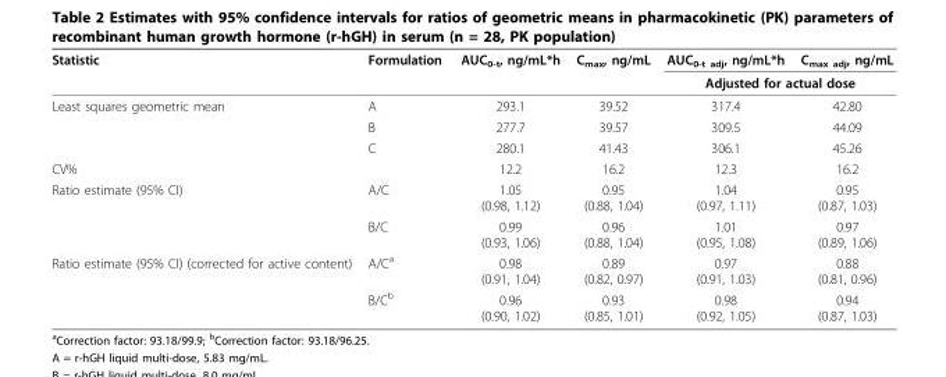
<table><thead><tr><td rowspan="2">Statistic</td><td rowspan="2">Formulation</td><td rowspan="2">AUC<sub>0-t</sub>, ng/mL*h</td><td rowspan="2">C<sub>max</sub>, ng/mL</td><td>AUC<sub>0-t adj</sub>, ng/mL*h</td><td>C<sub>max adj</sub>, ng/mL</td></tr><tr><td colspan="2">Adjusted for actual dose</td></tr></thead><tbody><tr><td rowspan="3">Least squares geometric mean</td><td>A</td><td>293.1</td><td>39.52</td><td>317.4</td><td>42.80</td></tr><tr><td>B</td><td>277.7</td><td>39.57</td><td>309.5</td><td>44.09</td></tr><tr><td>C</td><td>280.1</td><td>41.43</td><td>306.1</td><td>45.26</td></tr><tr><td>CV%</td><td></td><td>12.2</td><td>16.2</td><td>12.3</td><td>16.2</td></tr><tr><td rowspan="2">Ratio estimate (95% CI)</td><td>A/C</td><td>1.05 (0.98, 1.12)</td><td>0.95 (0.88, 1.04)</td><td>1.04 (0.97, 1.11)</td><td>0.95 (0.87, 1.03)</td></tr><tr><td>B/C</td><td>0.99 (0.93, 1.06)</td><td>0.96 (0.88, 1.04)</td><td>1.01 (0.95, 1.08)</td><td>0.97 (0.89, 1.06)</td></tr><tr><td rowspan="2">Ratio estimate (95% CI) (corrected for active content)</td><td>A/C<sup>a</sup></td><td>0.98 (0.91, 1.04)</td><td>0.89 (0.82, 0.97)</td><td>0.97 (0.91, 1.03)</td><td>0.88 (0.81, 0.96)</td></tr><tr><td>B/C<sup>b</sup></td><td>0.96 (0.90, 1.02)</td><td>0.93 (0.85, 1.01)</td><td>0.98 (0.92, 1.05)</td><td>0.94 (0.87, 1.03)</td></tr></tbody></table>